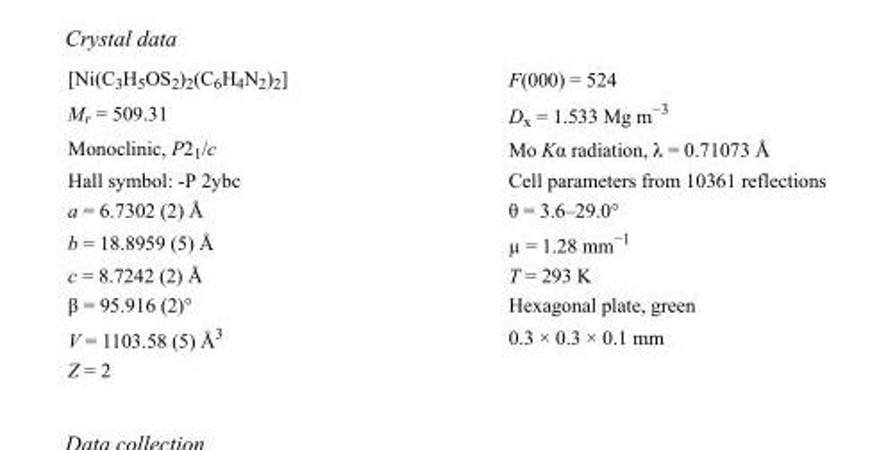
<table><tbody><tr><td>[Ni(C<sub>3</sub>H<sub>5</sub>OS<sub>2</sub>)<sub>2</sub>(C<sub>6</sub>H<sub>4</sub>N<sub>2</sub>)<sub>2</sub>]</td><td>F(000) = 524</td></tr><tr><td>M<sub>r</sub> = 509.31</td><td>D<sub>x</sub> = 1.533 Mg m<sup>−3</sup></td></tr><tr><td>Monoclinic, P2<sub>1</sub>/c</td><td>Mo Kα radiation, λ = 0.71073 Å</td></tr><tr><td>Hall symbol: -P 2ybc</td><td>Cell parameters from 10361 reflections</td></tr><tr><td>a = 6.7302 (2) Å</td><td>θ = 3.6–29.0°</td></tr><tr><td>b = 18.8959 (5) Å</td><td>µ = 1.28 mm<sup>−1</sup></td></tr><tr><td>c = 8.7242 (2) Å</td><td>T = 293 K</td></tr><tr><td>β = 95.916 (2)°</td><td>Hexagonal plate, green</td></tr><tr><td>V = 1103.58 (5) Å<sup>3</sup></td><td>0.3 × 0.3 × 0.1 mm</td></tr><tr><td>Z = 2</td><td></td></tr></tbody></table>